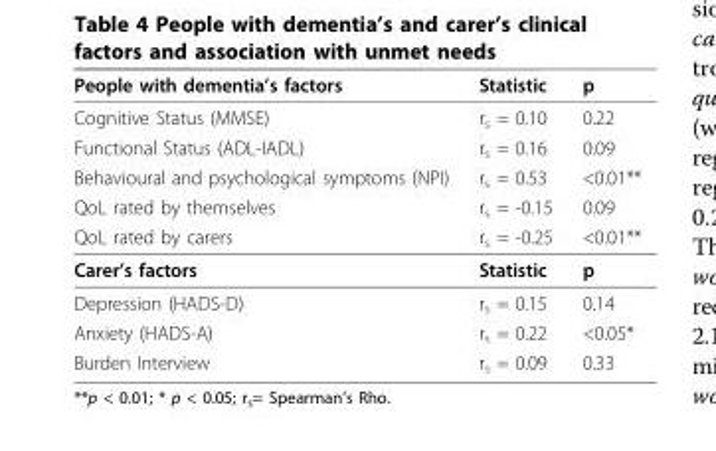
<table><thead><tr><td>People with dementia’s factors</td><td>Statistic</td><td>p</td></tr></thead><tbody><tr><td>Cognitive Status (MMSE)</td><td>r<sub>s</sub> = 0.10</td><td>0.22</td></tr><tr><td>Functional Status (ADL-IADL)</td><td>r<sub>s</sub> = 0.16</td><td>0.09</td></tr><tr><td>Behavioural and psychological symptoms (NPI)</td><td>r<sub>s</sub> = 0.53</td><td>&lt;0.01**</td></tr><tr><td>QoL rated by themselves</td><td>r<sub>s</sub> = -0.15</td><td>0.09</td></tr><tr><td>QoL rated by carers</td><td>r<sub>s</sub> = -0.25</td><td>&lt;0.01**</td></tr><tr><td>Carer’s factors</td><td>Statistic</td><td>p</td></tr><tr><td>Depression (HADS-D)</td><td>r<sub>s</sub> = 0.15</td><td>0.14</td></tr><tr><td>Anxiety (HADS-A)</td><td>r<sub>s</sub> = 0.22</td><td>&lt;0.05*</td></tr><tr><td>Burden Interview</td><td>r<sub>s</sub> = 0.09</td><td>0.33</td></tr></tbody></table>